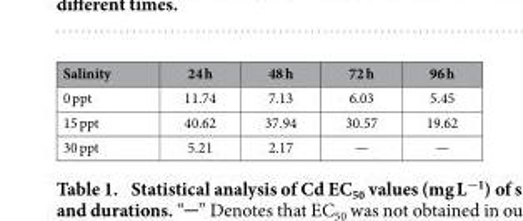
<table><thead><tr><td>Salinity</td><td>24 h</td><td>48 h</td><td>72 h</td><td>96 h</td></tr></thead><tbody><tr><td>0 ppt</td><td>11.74</td><td>7.13</td><td>6.03</td><td>5.45</td></tr><tr><td>15 ppt</td><td>40.62</td><td>37.94</td><td>30.57</td><td>19.62</td></tr><tr><td>30 ppt</td><td>5.21</td><td>2.17</td><td>—</td><td>—</td></tr></tbody></table>